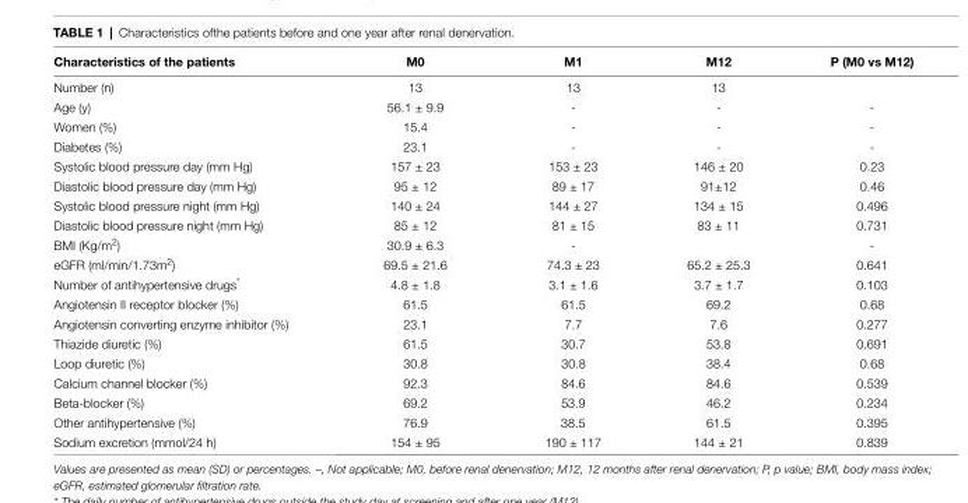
<table><thead><tr><td>characteristics of the patients</td><td>M0</td><td>M1</td><td>M12</td><td>P (M0 vs M12)</td></tr></thead><tbody><tr><td>Number (n)</td><td>13</td><td>13</td><td>13</td><td></td></tr><tr><td>Age (y)</td><td>56.1 ± 9.9</td><td>-</td><td>-</td><td>-</td></tr><tr><td>Women (%)</td><td>15.4</td><td>-</td><td>-</td><td>-</td></tr><tr><td>Diabetes (%)</td><td>23.1</td><td>-</td><td>-</td><td>-</td></tr><tr><td>Systolic blood pressure day (mm Hg)</td><td>157 ± 23</td><td>153 ± 23</td><td>146 ± 20</td><td>0.23</td></tr><tr><td>Diastolic blood pressure day (mm Hg)</td><td>95 ± 12</td><td>89 ± 17</td><td>91±12</td><td>0.46</td></tr><tr><td>Systolic blood pressure night (mm Hg)</td><td>140 ± 24</td><td>144 ± 27</td><td>134 ± 15</td><td>0.496</td></tr><tr><td>Diastolic blood pressure night (mm Hg)</td><td>85 ± 12</td><td>81 ± 15</td><td>83 ± 11</td><td>0.731</td></tr><tr><td>BMI (Kg/m<sup>2</sup>)</td><td>30.9 ± 6.3</td><td>-</td><td></td><td>-</td></tr><tr><td>eGFR (ml/min/1.73m<sup>2</sup>)</td><td>69.5 ± 21.6</td><td>74.3 ± 23</td><td>65.2 ± 25.3</td><td>0.641</td></tr><tr><td>Number of antihypertensive drugs*</td><td>4.8 ± 1.8</td><td>3.1 ± 1.6</td><td>3.7 ± 1.7</td><td>0.103</td></tr><tr><td>Angiotensin II receptor blocker (%)</td><td>61.5</td><td>61.5</td><td>69.2</td><td>0.68</td></tr><tr><td>Angiotensin converting enzyme inhibitor (%)</td><td>23.1</td><td>7.7</td><td>7.6</td><td>0.277</td></tr><tr><td>Thiazide diuretic (%)</td><td>61.5</td><td>30.7</td><td>53.8</td><td>0.691</td></tr><tr><td>Loop diuretic (%)</td><td>30.8</td><td>30.8</td><td>38.4</td><td>0.68</td></tr><tr><td>Calcium channel blocker (%)</td><td>92.3</td><td>84.6</td><td>84.6</td><td>0.539</td></tr><tr><td>Beta-blocker (%)</td><td>69.2</td><td>53.9</td><td>46.2</td><td>0.234</td></tr><tr><td>Other antihypertensive (%)</td><td>76.9</td><td>38.5</td><td>61.5</td><td>0.395</td></tr><tr><td>Sodium excretion (mmol/24 h)</td><td>154 ± 95</td><td>190 ± 117</td><td>144 ± 21</td><td>0.839</td></tr></tbody></table>